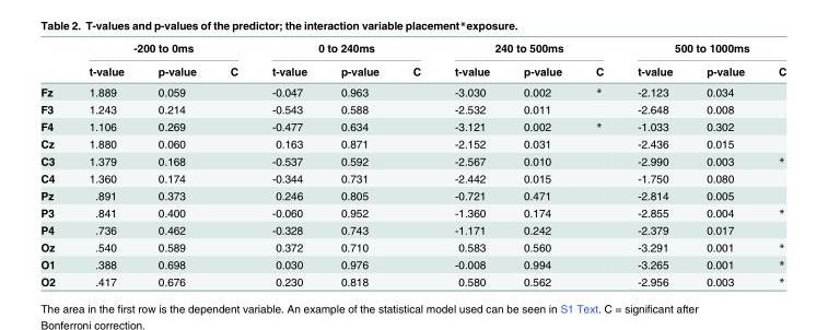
<table><thead><tr><td rowspan="2"></td><td colspan="3">-200 to 0ms</td><td colspan="3">0 to 240ms</td><td colspan="3">240 to 500ms</td><td colspan="3">500 to 1000ms</td></tr><tr><td>t-value</td><td>p-value</td><td>C</td><td>t-value</td><td>p-value</td><td>C</td><td>t-value</td><td>p-value</td><td>C</td><td>t-value</td><td>p-value</td><td>C</td></tr></thead><tbody><tr><td>Fz</td><td>1.889</td><td>0.059</td><td></td><td>-0.047</td><td>0.963</td><td></td><td>-3.030</td><td>0.002</td><td>*</td><td>-2.123</td><td>0.034</td><td></td></tr><tr><td>F3</td><td>1.243</td><td>0.214</td><td></td><td>-0.543</td><td>0.588</td><td></td><td>-2.532</td><td>0.011</td><td></td><td>-2.648</td><td>0.008</td><td></td></tr><tr><td>F4</td><td>1.106</td><td>0.269</td><td></td><td>-0.477</td><td>0.634</td><td></td><td>-3.121</td><td>0.002</td><td>*</td><td>-1.033</td><td>0.302</td><td></td></tr><tr><td>Cz</td><td>1.880</td><td>0.060</td><td></td><td>0.163</td><td>0.871</td><td></td><td>-2.152</td><td>0.031</td><td></td><td>-2.436</td><td>0.015</td><td></td></tr><tr><td>C3</td><td>1.379</td><td>0.168</td><td></td><td>-0.537</td><td>0.592</td><td></td><td>-2.567</td><td>0.010</td><td></td><td>-2.990</td><td>0.003</td><td>*</td></tr><tr><td>C4</td><td>1.360</td><td>0.174</td><td></td><td>-0.344</td><td>0.731</td><td></td><td>-2.442</td><td>0.015</td><td></td><td>-1.750</td><td>0.080</td><td></td></tr><tr><td>Pz</td><td>.891</td><td>0.373</td><td></td><td>0.246</td><td>0.805</td><td></td><td>-0.721</td><td>0.471</td><td></td><td>-2.814</td><td>0.005</td><td></td></tr><tr><td>P3</td><td>.841</td><td>0.400</td><td></td><td>-0.060</td><td>0.952</td><td></td><td>-1.360</td><td>0.174</td><td></td><td>-2.855</td><td>0.004</td><td>*</td></tr><tr><td>P4</td><td>.736</td><td>0.462</td><td></td><td>-0.328</td><td>0.743</td><td></td><td>-1.171</td><td>0.242</td><td></td><td>-2.379</td><td>0.017</td><td></td></tr><tr><td>Oz</td><td>.540</td><td>0.589</td><td></td><td>0.372</td><td>0.710</td><td></td><td>0.583</td><td>0.560</td><td></td><td>-3.291</td><td>0.001</td><td>*</td></tr><tr><td>O1</td><td>.388</td><td>0.698</td><td></td><td>0.030</td><td>0.976</td><td></td><td>-0.008</td><td>0.994</td><td></td><td>-3.265</td><td>0.001</td><td>*</td></tr><tr><td>O2</td><td>.417</td><td>0.676</td><td></td><td>0.230</td><td>0.818</td><td></td><td>0.580</td><td>0.562</td><td></td><td>-2.956</td><td>0.003</td><td>*</td></tr></tbody></table>